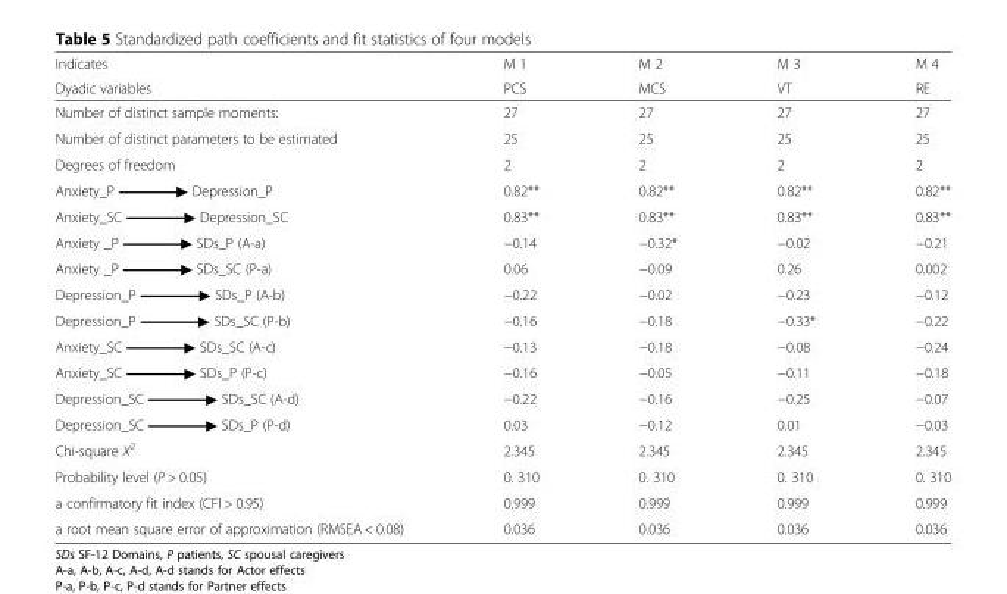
<table><thead><tr><td rowspan="2">Indicates Dyadic variables</td><td rowspan="2">M 1 PCS</td><td rowspan="2">M 2 MCS</td><td rowspan="2">M 3 VT</td><td rowspan="2">M 4 RE</td></tr><tr></tr></thead><tbody><tr><td>Number of distinct sample moments:</td><td>27</td><td>27</td><td>27</td><td>27</td></tr><tr><td>Number of distinct parameters to be estimated</td><td>25</td><td>25</td><td>25</td><td>25</td></tr><tr><td>Degrees of freedom</td><td>2</td><td>2</td><td>2</td><td>2</td></tr><tr><td>Anxiety_P Depression_P</td><td>0.82**</td><td>0.82**</td><td>0.82**</td><td>0.82**</td></tr><tr><td>Anxiety_SC Depression_SC</td><td>0.83**</td><td>0.83**</td><td>0.83**</td><td>0.83**</td></tr><tr><td>Anxiety _P SDs_P (A-a)</td><td>−0.14</td><td>−0.32*</td><td>−0.02</td><td>−0.21</td></tr><tr><td>Anxiety _P SDs_SC (P-a)</td><td>0.06</td><td>−0.09</td><td>0.26</td><td>0.002</td></tr><tr><td>Depression_P SDs_P (A-b)</td><td>−0.22</td><td>−0.02</td><td>−0.23</td><td>−0.12</td></tr><tr><td>Depression_P SDs_SC (P-b)</td><td>−0.16</td><td>−0.18</td><td>−0.33*</td><td>−0.22</td></tr><tr><td>Anxiety_SC SDs_SC (A-c)</td><td>−0.13</td><td>−0.18</td><td>−0.08</td><td>−0.24</td></tr><tr><td>Anxiety_SC SDs_P (P-c)</td><td>−0.16</td><td>−0.05</td><td>−0.11</td><td>−0.18</td></tr><tr><td>Depression_SC SDs_SC (A-d)</td><td>−0.22</td><td>−0.16</td><td>−0.25</td><td>−0.07</td></tr><tr><td>Depression_SC SDs_P (P-d)</td><td>0.03</td><td>−0.12</td><td>0.01</td><td>−0.03</td></tr><tr><td>Chi-square X<sup>2</sup></td><td>2.345</td><td>2.345</td><td>2.345</td><td>2.345</td></tr><tr><td>Probability level (P &gt; 0.05)</td><td>0. 310</td><td>0. 310</td><td>0. 310</td><td>0. 310</td></tr><tr><td>a confirmatory fit index (CFI &gt; 0.95)</td><td>0.999</td><td>0.999</td><td>0.999</td><td>0.999</td></tr><tr><td>a root mean square error of approximation (RMSEA &lt; 0.08)</td><td>0.036</td><td>0.036</td><td>0.036</td><td>0.036</td></tr></tbody></table>